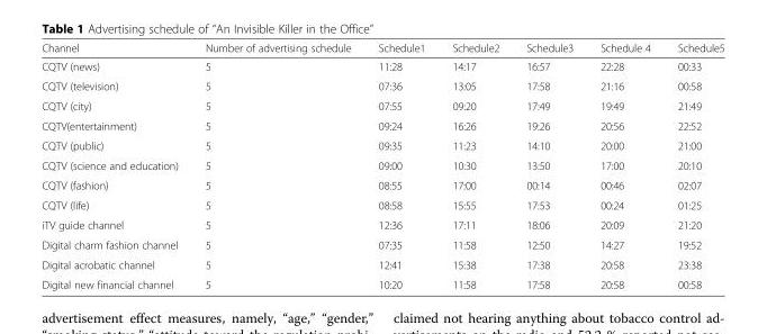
<table><thead><tr><td>Channel</td><td>Number of advertising schedule</td><td>Schedule1</td><td>Schedule2</td><td>Schedule3</td><td>Schedule 4</td><td>Schedule5</td></tr></thead><tbody><tr><td>CQTV (news)</td><td>5</td><td>11:28</td><td>14:17</td><td>16:57</td><td>22:28</td><td>00:33</td></tr><tr><td>CQTV (television)</td><td>5</td><td>07:36</td><td>13:05</td><td>17:58</td><td>21:16</td><td>00:58</td></tr><tr><td>CQTV (city)</td><td>5</td><td>07:55</td><td>09:20</td><td>17:49</td><td>19:49</td><td>21:49</td></tr><tr><td>CQTV(entertainment)</td><td>5</td><td>09:24</td><td>16:26</td><td>19:26</td><td>20:56</td><td>22:52</td></tr><tr><td>CQTV (public)</td><td>5</td><td>09:35</td><td>11:23</td><td>14:10</td><td>20:00</td><td>21:00</td></tr><tr><td>CQTV (science and education)</td><td>5</td><td>09:00</td><td>10:30</td><td>13:50</td><td>17:00</td><td>20:10</td></tr><tr><td>CQTV (fashion)</td><td>5</td><td>08:55</td><td>17:00</td><td>00:14</td><td>00:46</td><td>02:07</td></tr><tr><td>CQTV (life)</td><td>5</td><td>08:58</td><td>15:55</td><td>17:53</td><td>00:24</td><td>01:25</td></tr><tr><td>iTV guide channel</td><td>5</td><td>12:36</td><td>17:11</td><td>18:06</td><td>20:09</td><td>21:20</td></tr><tr><td>Digital charm fashion channel</td><td>5</td><td>07:35</td><td>11:58</td><td>12:50</td><td>14:27</td><td>19:52</td></tr><tr><td>Digital acrobatic channel</td><td>5</td><td>12:41</td><td>15:38</td><td>17:38</td><td>20:58</td><td>23:38</td></tr><tr><td>Digital new financial channel</td><td>5</td><td>10:20</td><td>11:58</td><td>17:58</td><td>20:58</td><td>00:58</td></tr></tbody></table>